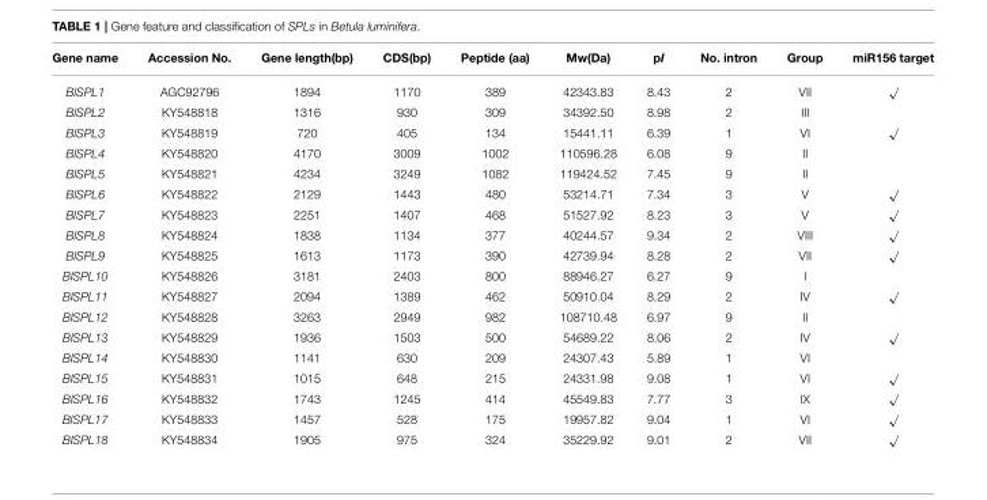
<table><thead><tr><td>Gene name</td><td>Accession No.</td><td>Gene length(bp)</td><td>CDS(bp)</td><td>Peptide (aa)</td><td>Mw(Da)</td><td>pI</td><td>No. intron</td><td>Group</td><td>miR156 target</td></tr></thead><tbody><tr><td>BlSPL1</td><td>AGC92796</td><td>1894</td><td>1170</td><td>389</td><td>42343.83</td><td>8.43</td><td>2</td><td>VII</td><td>√</td></tr><tr><td>BlSPL2</td><td>KY548818</td><td>1316</td><td>930</td><td>309</td><td>34392.50</td><td>8.98</td><td>2</td><td>III</td><td></td></tr><tr><td>BlSPL3</td><td>KY548819</td><td>720</td><td>405</td><td>134</td><td>15441.11</td><td>6.39</td><td>1</td><td>VI</td><td>√</td></tr><tr><td>BlSPL4</td><td>KY548820</td><td>4170</td><td>3009</td><td>1002</td><td>110596.28</td><td>6.08</td><td>9</td><td>II</td><td></td></tr><tr><td>BlSPL5</td><td>KY548821</td><td>4234</td><td>3249</td><td>1082</td><td>119424.52</td><td>7.45</td><td>9</td><td>II</td><td></td></tr><tr><td>BlSPL6</td><td>KY548822</td><td>2129</td><td>1443</td><td>480</td><td>53214.71</td><td>7.34</td><td>3</td><td>V</td><td>√</td></tr><tr><td>BlSPL7</td><td>KY548823</td><td>2251</td><td>1407</td><td>468</td><td>51527.92</td><td>8.23</td><td>3</td><td>V</td><td>√</td></tr><tr><td>BlSPL8</td><td>KY548824</td><td>1838</td><td>1134</td><td>377</td><td>40244.57</td><td>9.34</td><td>2</td><td>VIII</td><td>√</td></tr><tr><td>BlSPL9</td><td>KY548825</td><td>1613</td><td>1173</td><td>390</td><td>42739.94</td><td>8.28</td><td>2</td><td>VII</td><td>√</td></tr><tr><td>BlSPL10</td><td>KY548826</td><td>3181</td><td>2403</td><td>800</td><td>88946.27</td><td>6.27</td><td>9</td><td>I</td><td></td></tr><tr><td>BlSPL11</td><td>KY548827</td><td>2094</td><td>1389</td><td>462</td><td>50910.04</td><td>8.29</td><td>2</td><td>IV</td><td>√</td></tr><tr><td>BlSPL12</td><td>KY548828</td><td>3263</td><td>2949</td><td>982</td><td>108710.48</td><td>6.97</td><td>9</td><td>II</td><td></td></tr><tr><td>BlSPL13</td><td>KY548829</td><td>1936</td><td>1503</td><td>500</td><td>54689.22</td><td>8.06</td><td>2</td><td>IV</td><td>√</td></tr><tr><td>BlSPL14</td><td>KY548830</td><td>1141</td><td>630</td><td>209</td><td>24307.43</td><td>5.89</td><td>1</td><td>VI</td><td></td></tr><tr><td>BlSPL15</td><td>KY548831</td><td>1015</td><td>648</td><td>215</td><td>24331.98</td><td>9.08</td><td>1</td><td>VI</td><td>√</td></tr><tr><td>BlSPL16</td><td>KY548832</td><td>1743</td><td>1245</td><td>414</td><td>45549.83</td><td>7.77</td><td>3</td><td>IX</td><td>√</td></tr><tr><td>BlSPL17</td><td>KY548833</td><td>1457</td><td>528</td><td>175</td><td>19957.82</td><td>9.04</td><td>1</td><td>VI</td><td>√</td></tr><tr><td>BlSPL18</td><td>KY548834</td><td>1905</td><td>975</td><td>324</td><td>35229.92</td><td>9.01</td><td>2</td><td>VII</td><td>√</td></tr></tbody></table>